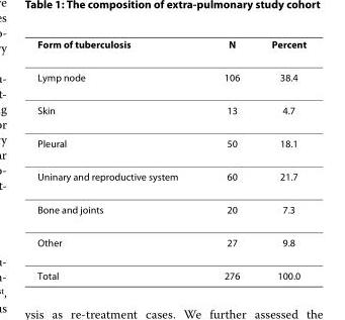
<table><thead><tr><td>Form of tuberculosis</td><td>N</td><td>Percent</td></tr></thead><tbody><tr><td>Lymp node</td><td>106</td><td>38.4</td></tr><tr><td>Skin</td><td>13</td><td>4.7</td></tr><tr><td>Pleural</td><td>50</td><td>18.1</td></tr><tr><td>Uninary and reproductive system</td><td>60</td><td>21.7</td></tr><tr><td>Bone and joints</td><td>20</td><td>7.3</td></tr><tr><td>Other</td><td>27</td><td>9.8</td></tr><tr><td>Total</td><td>276</td><td>100.0</td></tr></tbody></table>